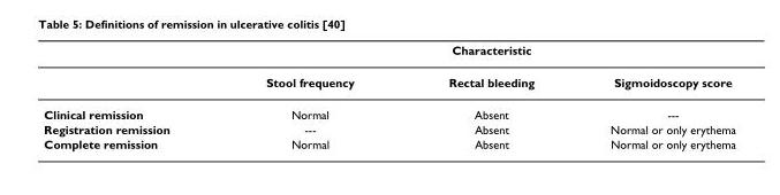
<table><thead><tr><td rowspan="2"></td><td colspan="3">Characteristic</td></tr><tr><td>Stool frequency</td><td>Rectal bleeding</td><td>Sigmoidoscopy score</td></tr></thead><tbody><tr><td>Clinical remission</td><td>Normal</td><td>Absent</td><td>---</td></tr><tr><td>Registration remission</td><td>---</td><td>Absent</td><td>Normal or only erythema</td></tr><tr><td>Complete remission</td><td>Normal</td><td>Absent</td><td>Normal or only erythema</td></tr></tbody></table>